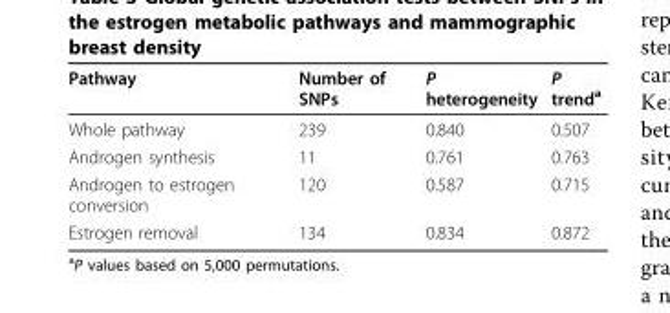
<table><thead><tr><td>Pathway</td><td>Number of SNPs</td><td>P heterogeneity</td><td>P trend<sup>a</sup></td></tr></thead><tbody><tr><td>Whole pathway</td><td>239</td><td>0.840</td><td>0.507</td></tr><tr><td>Androgen synthesis</td><td>11</td><td>0.761</td><td>0.763</td></tr><tr><td>Androgen to estrogen conversion</td><td>120</td><td>0.587</td><td>0.715</td></tr><tr><td>Estrogen removal</td><td>134</td><td>0.834</td><td>0.872</td></tr></tbody></table>